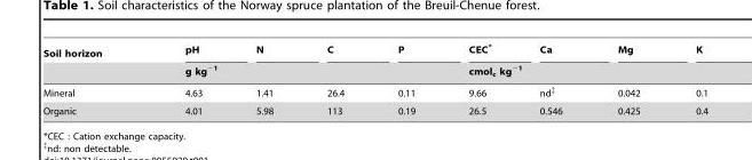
<table><thead><tr><td rowspan="2">Soil horizon</td><td>pH</td><td>N</td><td>C</td><td>P</td><td>CEC*</td><td>Ca</td><td>Mg</td><td>K</td></tr><tr><td colspan="4">g kg<sup>−1</sup></td><td colspan="4">cmol<sub>c</sub> kg<sup>−1</sup></td></tr></thead><tbody><tr><td>Mineral</td><td>4.63</td><td>1.41</td><td>26.4</td><td>0.11</td><td>9.66</td><td>nd‡</td><td>0.042</td><td>0.1</td></tr><tr><td>Organic</td><td>4.01</td><td>5.98</td><td>113</td><td>0.19</td><td>26.5</td><td>0.546</td><td>0.425</td><td>0.4</td></tr></tbody></table>